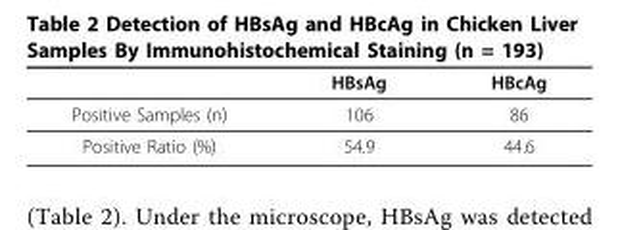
<table><thead><tr><td></td><td>HBsAg</td><td>HBcAg</td></tr></thead><tbody><tr><td>Positive Samples (n)</td><td>106</td><td>86</td></tr><tr><td>Positive Ratio (%)</td><td>54.9</td><td>44.6</td></tr></tbody></table>